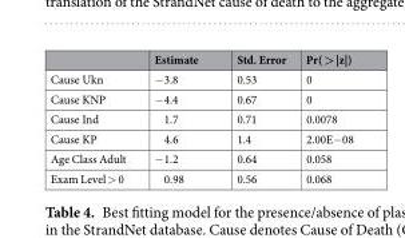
<table><thead><tr><td></td><td>Estimate</td><td>Std. Error</td><td>Pr( &gt; |z|)</td></tr></thead><tbody><tr><td>Cause Ukn</td><td>−3.8</td><td>0.53</td><td>0</td></tr><tr><td>Cause KNP</td><td>−4.4</td><td>0.67</td><td>0</td></tr><tr><td>Cause Ind</td><td>1.7</td><td>0.71</td><td>0.0078</td></tr><tr><td>Cause KP</td><td>4.6</td><td>1.4</td><td>2.00E−08</td></tr><tr><td>Age Class Adult</td><td>−1.2</td><td>0.64</td><td>0.058</td></tr><tr><td>Exam Level &gt; 0</td><td>0.98</td><td>0.56</td><td>0.068</td></tr></tbody></table>